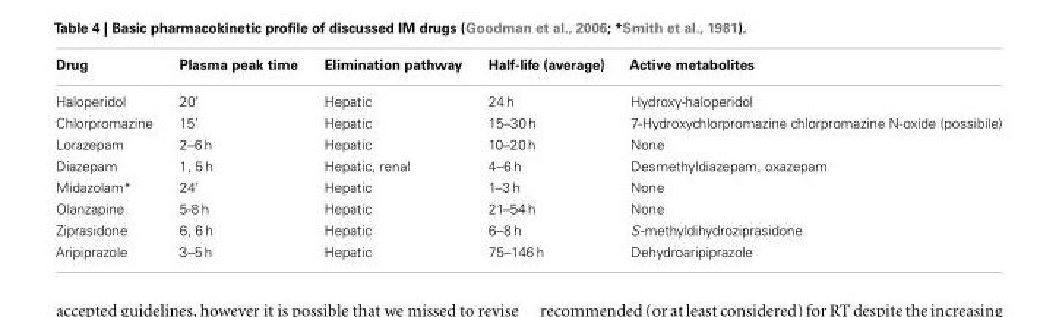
<table><thead><tr><td>Drug</td><td>Plasma peak time</td><td>Elimination pathway</td><td>Half-life (average)</td><td>Active metabolites</td></tr></thead><tbody><tr><td>Haloperidol</td><td>20′</td><td>Hepatic</td><td>24 h</td><td>Hydroxy-haloperidol</td></tr><tr><td>Chlorpromazine</td><td>15’</td><td>Hepatic</td><td>15–30 h</td><td>7-Hydroxychlorpromazine chlorpromazine N-oxide (possibile)</td></tr><tr><td>Lorazepam</td><td>2–6 h</td><td>Hepatic</td><td>10–20 h</td><td>None</td></tr><tr><td>Diazepam</td><td>1, 5 h</td><td>Hepatic, renal</td><td>4–6 h</td><td>Desmethyldiazepam, oxazepam</td></tr><tr><td>Midazolam*</td><td>24′</td><td>Hepatic</td><td>1–3 h</td><td>None</td></tr><tr><td>Olanzapine</td><td>5-8 h</td><td>Hepatic</td><td>21–54 h</td><td>None</td></tr><tr><td>Ziprasidone</td><td>6, 6 h</td><td>Hepatic</td><td>6–8 h</td><td>S-methyldihydroziprasidone</td></tr><tr><td>Aripiprazole</td><td>3–5 h</td><td>Hepatic</td><td>75–146 h</td><td>Dehydroaripiprazole</td></tr></tbody></table>